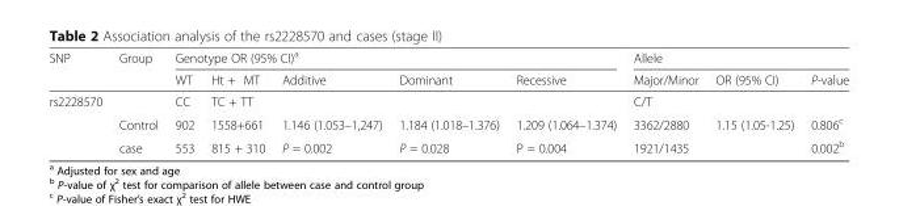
<table><thead><tr><td rowspan="2">SNP</td><td rowspan="2">Group</td><td colspan="5">Genotype OR (95% CI)<sup>a</sup></td><td colspan="3">Allele</td></tr><tr><td>WT</td><td>Ht + MT</td><td>Additive</td><td>Dominant</td><td>Recessive</td><td>Major/Minor</td><td>OR (95% CI)</td><td>P-value</td></tr></thead><tbody><tr><td rowspan="3">rs2228570</td><td></td><td>CC</td><td>TC + TT</td><td></td><td></td><td></td><td>C/T</td><td></td><td></td></tr><tr><td>Control</td><td>902</td><td>1558+661</td><td>1.146 (1.053–1,247)</td><td>1.184 (1.018–1.376)</td><td>1.209 (1.064–1.374)</td><td>3362/2880</td><td>1.15 (1.05-1.25)</td><td>0.806<sup>c</sup></td></tr><tr><td>case</td><td>553</td><td>815 + 310</td><td>P = 0.002</td><td>P = 0.028</td><td>P = 0.004</td><td>1921/1435</td><td></td><td>0.002<sup>b</sup></td></tr></tbody></table>